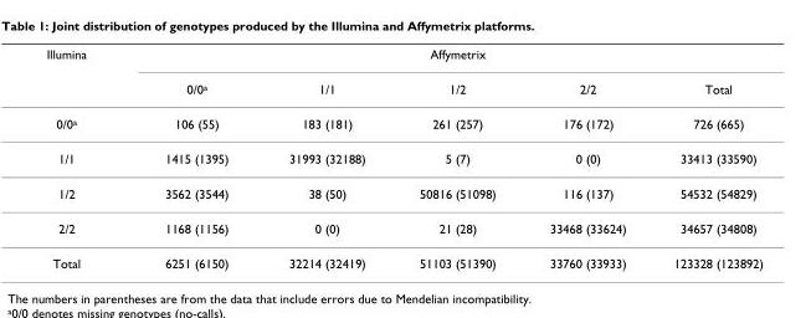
<table><thead><tr><td rowspan="2">Illumina</td><td colspan="5">Affymetrix</td></tr><tr><td>0/0a</td><td>1/1</td><td>1/2</td><td>2/2</td><td>Total</td></tr></thead><tbody><tr><td>0/0a</td><td>106 (55)</td><td>183 (181)</td><td>261 (257)</td><td>176 (172)</td><td>726 (665)</td></tr><tr><td>1/1</td><td>1415 (1395)</td><td>31993 (32188)</td><td>5 (7)</td><td>0 (0)</td><td>33413 (33590)</td></tr><tr><td>1/2</td><td>3562 (3544)</td><td>38 (50)</td><td>50816 (51098)</td><td>116 (137)</td><td>54532 (54829)</td></tr><tr><td>2/2</td><td>1168 (1156)</td><td>0 (0)</td><td>21 (28)</td><td>33468 (33624)</td><td>34657 (34808)</td></tr><tr><td>Total</td><td>6251 (6150)</td><td>32214 (32419)</td><td>51103 (51390)</td><td>33760 (33933)</td><td>123328 (123892)</td></tr></tbody></table>